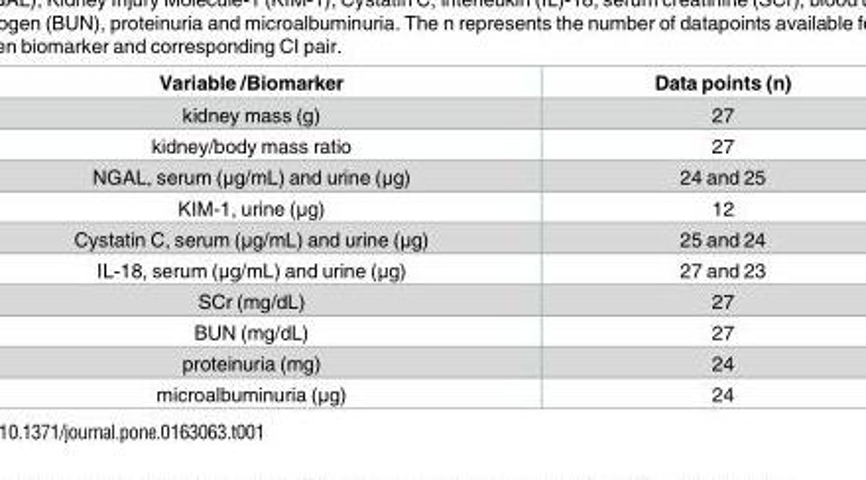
<table><thead><tr><td>Variable /Biomarker</td><td>Data points (n)</td></tr></thead><tbody><tr><td>kidney mass (g)</td><td>27</td></tr><tr><td>kidney/body mass ratio</td><td>27</td></tr><tr><td>NGAL, serum (μg/mL) and urine (μg)</td><td>24 and 25</td></tr><tr><td>KIM-1, urine (μg)</td><td>12</td></tr><tr><td>Cystatin C, serum (μg/mL) and urine (μg)</td><td>25 and 24</td></tr><tr><td>IL-18, serum (μg/mL) and urine (μg)</td><td>27 and 23</td></tr><tr><td>SCr (mg/dL)</td><td>27</td></tr><tr><td>BUN (mg/dL)</td><td>27</td></tr><tr><td>proteinuria (mg)</td><td>24</td></tr><tr><td>microalbuminuria (μg)</td><td>24</td></tr></tbody></table>